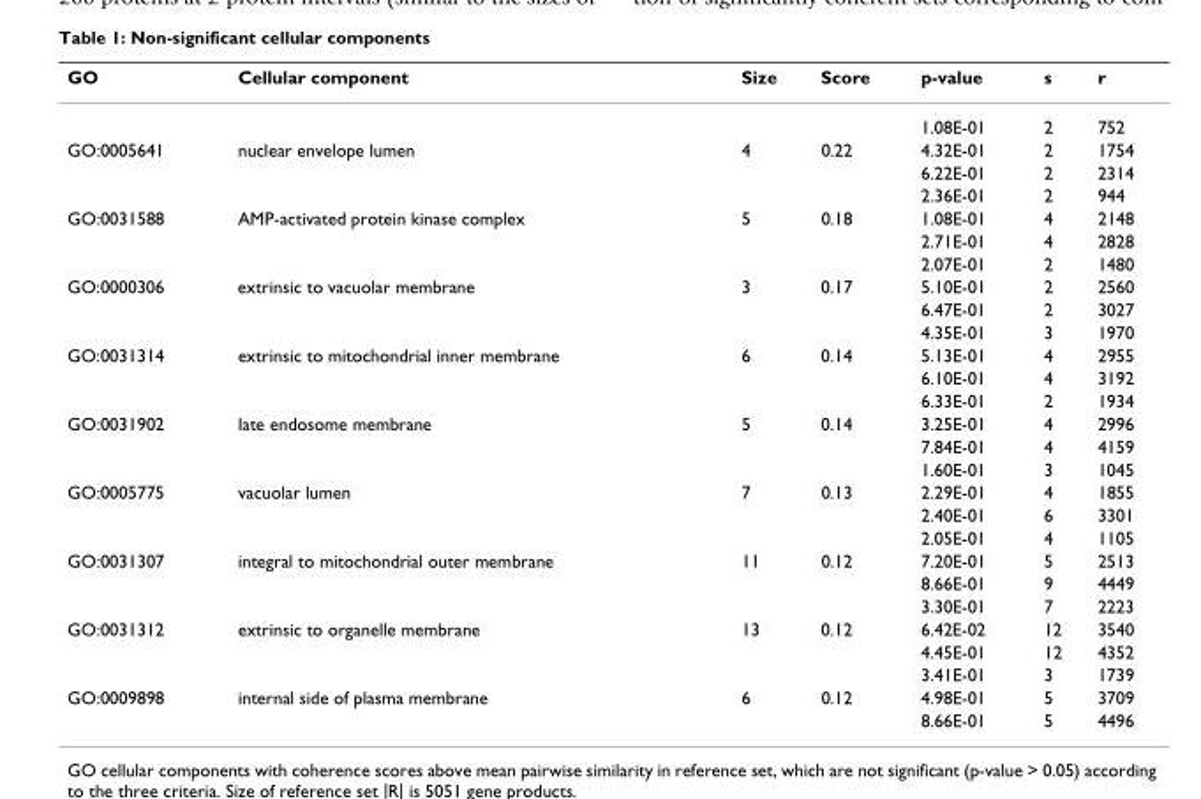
<table><thead><tr><td>GO</td><td>Cellular component</td><td>Size</td><td>Score</td><td>p-value</td><td>s</td><td>r</td></tr></thead><tbody><tr><td></td><td></td><td></td><td></td><td>1.08E-01</td><td>2</td><td>752</td></tr><tr><td rowspan="3">GO:0005641</td><td>nuclear envelope lumen</td><td>4</td><td>0.22</td><td>4.32E-01</td><td>2</td><td>1754</td></tr><tr><td></td><td></td><td></td><td>6.22E-01</td><td>2</td><td>2314</td></tr><tr><td></td><td></td><td></td><td>2.36E-01</td><td>2</td><td>944</td></tr><tr><td rowspan="3">GO:0031588</td><td>AMP-activated protein kinase complex</td><td>5</td><td>0.18</td><td>1.08E-01</td><td>4</td><td>2148</td></tr><tr><td></td><td></td><td></td><td>2.71E-01</td><td>4</td><td>2828</td></tr><tr><td></td><td></td><td></td><td>2.07E-01</td><td>2</td><td>1480</td></tr><tr><td rowspan="3">GO:0000306</td><td>extrinsic to vacuolar membrane</td><td>3</td><td>0.17</td><td>5.10E-01</td><td>2</td><td>2560</td></tr><tr><td></td><td></td><td></td><td>6.47E-01</td><td>2</td><td>3027</td></tr><tr><td></td><td></td><td></td><td>4.35E-01</td><td>3</td><td>1970</td></tr><tr><td rowspan="3">GO:0031314</td><td>extrinsic to mitochondrial inner membrane</td><td>6</td><td>0.14</td><td>5.13E-01</td><td>4</td><td>2955</td></tr><tr><td></td><td></td><td></td><td>6.10E-01</td><td>4</td><td>3192</td></tr><tr><td></td><td></td><td></td><td>6.33E-01</td><td>2</td><td>1934</td></tr><tr><td rowspan="3">GO:0031902</td><td>late endosome membrane</td><td>5</td><td>0.14</td><td>3.25E-01</td><td>4</td><td>2996</td></tr><tr><td></td><td></td><td></td><td>7.84E-01</td><td>4</td><td>4159</td></tr><tr><td></td><td></td><td></td><td>1.60E-01</td><td>3</td><td>1045</td></tr><tr><td rowspan="3">GO:0005775</td><td>vacuolar lumen</td><td>7</td><td>0.13</td><td>2.29E-01</td><td>4</td><td>1855</td></tr><tr><td></td><td></td><td></td><td>2.40E-01</td><td>6</td><td>3301</td></tr><tr><td></td><td></td><td></td><td>2.05E-01</td><td>4</td><td>1105</td></tr><tr><td rowspan="3">GO:0031307</td><td>integral to mitochondrial outer membrane</td><td>11</td><td>0.12</td><td>7.20E-01</td><td>5</td><td>2513</td></tr><tr><td></td><td></td><td></td><td>8.66E-01</td><td>9</td><td>4449</td></tr><tr><td></td><td></td><td></td><td>3.30E-01</td><td>7</td><td>2223</td></tr><tr><td rowspan="3">GO:0031312</td><td>extrinsic to organelle membrane</td><td>13</td><td>0.12</td><td>6.42E-02</td><td>12</td><td>3540</td></tr><tr><td></td><td></td><td></td><td>4.45E-01</td><td>12</td><td>4352</td></tr><tr><td></td><td></td><td></td><td>3.41E-01</td><td>3</td><td>1739</td></tr><tr><td rowspan="2">GO:0009898</td><td>internal side of plasma membrane</td><td>6</td><td>0.12</td><td>4.98E-01</td><td>5</td><td>3709</td></tr><tr><td></td><td></td><td></td><td>8.66E-01</td><td>5</td><td>4496</td></tr></tbody></table>